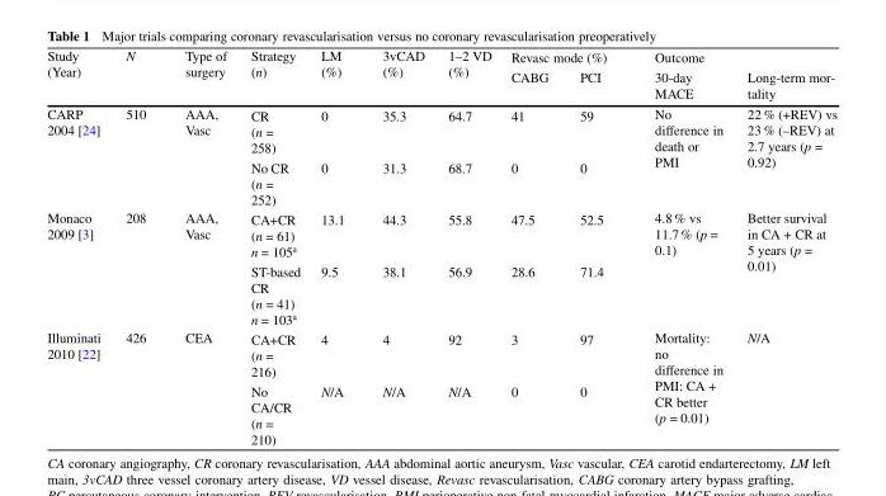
<table><thead><tr><td rowspan="2">Study (Year)</td><td rowspan="2">N</td><td rowspan="2">Type of surgery</td><td rowspan="2">Strategy (n)</td><td rowspan="2">LM (%)</td><td rowspan="2">3vCAD (%)</td><td rowspan="2">1–2 VD (%)</td><td colspan="2">Revasc mode (%)</td><td colspan="2">Outcome</td></tr><tr><td>CABG</td><td>PCI</td><td>30-day MACE</td><td>Long-term mor- tality</td></tr></thead><tbody><tr><td rowspan="2">CARP 2004 [24]</td><td rowspan="2">510</td><td rowspan="2">AAA, Vasc</td><td>CR (n = 258)</td><td>0</td><td>35.3</td><td>64.7</td><td>41</td><td>59</td><td rowspan="2">No difference in death or PMI</td><td rowspan="2">22 % (+REV) vs 23 % (–REV) at 2.7 years (p = 0.92)</td></tr><tr><td>No CR (n = 252)</td><td>0</td><td>31.3</td><td>68.7</td><td>0</td><td>0</td></tr><tr><td rowspan="2">Monaco 2009 [3]</td><td rowspan="2">208</td><td rowspan="2">AAA, Vasc</td><td>CA+CR (n = 61) n = 105<sup>a</sup></td><td>13.1</td><td>44.3</td><td>55.8</td><td>47.5</td><td>52.5</td><td rowspan="2">4.8 % vs 11.7 % (p = 0.1)</td><td rowspan="2">Better survival in CA + CR at 5 years (p = 0.01)</td></tr><tr><td>ST-based CR (n = 41) n = 103<sup>a</sup></td><td>9.5</td><td>38.1</td><td>56.9</td><td>28.6</td><td>71.4</td></tr><tr><td rowspan="2">Illuminati 2010 [22]</td><td rowspan="2">426</td><td rowspan="2">CEA</td><td>CA+CR (n = 216)</td><td>4</td><td>4</td><td>92</td><td>3</td><td>97</td><td rowspan="2">Mortality: no difference in PMI: CA + CR better (p = 0.01)</td><td rowspan="2">N/A</td></tr><tr><td>No CA/CR (n = 210)</td><td>N/A</td><td>N/A</td><td>N/A</td><td>0</td><td>0</td></tr></tbody></table>